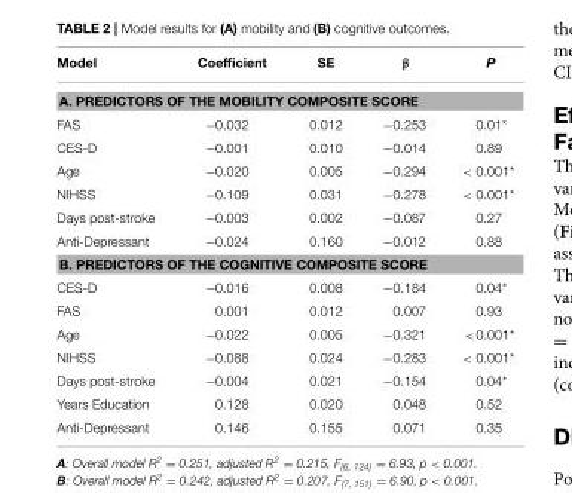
<table><thead><tr><td>Model</td><td>Coefficient</td><td>SE</td><td>β</td><td>P</td></tr></thead><tbody><tr><td colspan="5">A. PREDICTORS OF THE MOBILITY COMPOSITE SCORE</td></tr><tr><td>FAS</td><td>−0.032</td><td>0.012</td><td>−0.253</td><td>0.01*</td></tr><tr><td>CES-D</td><td>−0.001</td><td>0.010</td><td>−0.014</td><td>0.89</td></tr><tr><td>Age</td><td>−0.020</td><td>0.005</td><td>−0.294</td><td>&lt; 0.001*</td></tr><tr><td>NIHSS</td><td>−0.109</td><td>0.031</td><td>−0.278</td><td>&lt; 0.001*</td></tr><tr><td>Days post-stroke</td><td>−0.003</td><td>0.002</td><td>−0.087</td><td>0.27</td></tr><tr><td>Anti-Depressant</td><td>−0.024</td><td>0.160</td><td>−0.012</td><td>0.88</td></tr><tr><td colspan="5">B. PREDICTORS OF THE COGNITIVE COMPOSITE SCORE</td></tr><tr><td>CES-D</td><td>−0.016</td><td>0.008</td><td>−0.184</td><td>0.04*</td></tr><tr><td>FAS</td><td>0.001</td><td>0.012</td><td>0.007</td><td>0.93</td></tr><tr><td>Age</td><td>−0.022</td><td>0.005</td><td>−0.321</td><td>&lt;0.001*</td></tr><tr><td>NIHSS</td><td>−0.088</td><td>0.024</td><td>−0.283</td><td>&lt; 0.001*</td></tr><tr><td>Days post-stroke</td><td>−0.004</td><td>0.021</td><td>−0.154</td><td>0.04*</td></tr><tr><td>Years Education</td><td>0.128</td><td>0.020</td><td>0.048</td><td>0.52</td></tr><tr><td>Anti-Depressant</td><td>0.146</td><td>0.155</td><td>0.071</td><td>0.35</td></tr></tbody></table>